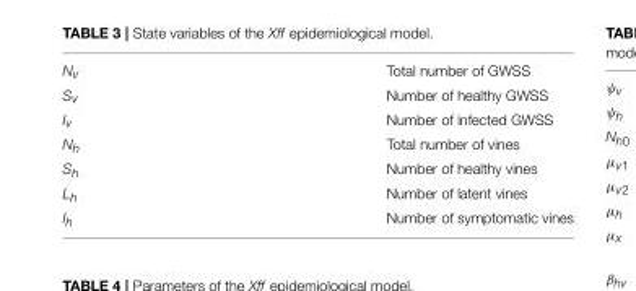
<table><tbody><tr><td>Nv</td><td>Total number of GWSS</td></tr><tr><td>Sv</td><td>Number of healthy GWSS</td></tr><tr><td>Iv</td><td>Number of infected GWSS</td></tr><tr><td>Nh</td><td>Total number of vines</td></tr><tr><td>Sh</td><td>Number of healthy vines</td></tr><tr><td>Lh</td><td>Number of latent vines</td></tr><tr><td>Ih</td><td>Number of symptomatic vines</td></tr></tbody></table>